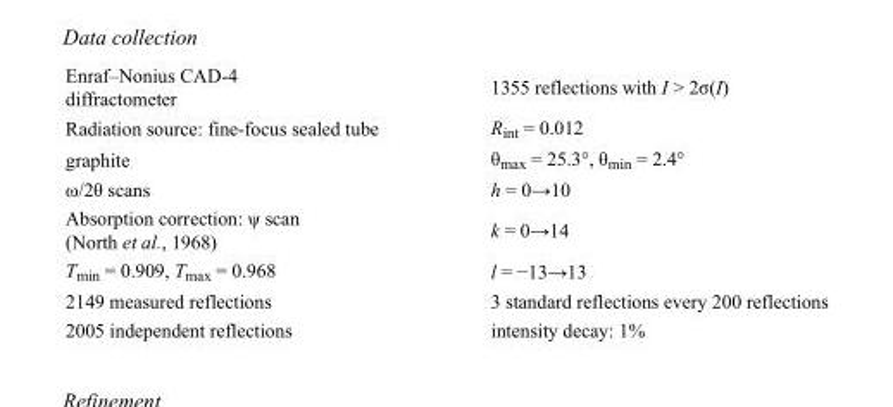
<table><tbody><tr><td>Enraf–Nonius CAD-4 diffractometer</td><td>1355 reflections with I &gt; 2σ(I)</td></tr><tr><td>Radiation source: fine-focus sealed tube</td><td>R<sub>int</sub> = 0.012</td></tr><tr><td>graphite</td><td>θ<sub>max</sub> = 25.3°, θ<sub>min</sub> = 2.4°</td></tr><tr><td>ω/2θ scans</td><td>h = 0→10</td></tr><tr><td>Absorption correction: ψ scan (North et al., 1968)</td><td>k = 0→14</td></tr><tr><td>T<sub>min</sub> = 0.909, T<sub>max</sub> = 0.968</td><td>l = −13→13</td></tr><tr><td>2149 measured reflections</td><td>3 standard reflections every 200 reflections</td></tr><tr><td>2005 independent reflections</td><td>intensity decay: 1%</td></tr></tbody></table>